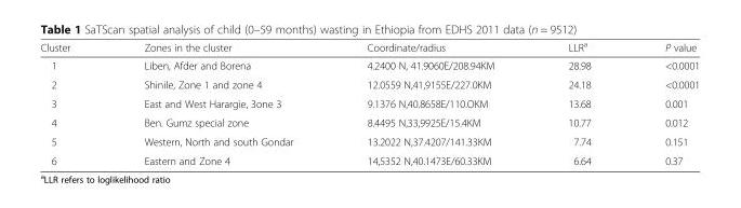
<table><thead><tr><td>Cluster</td><td>Zones in the cluster</td><td>Coordinate/radius</td><td>LLR<sup>a</sup></td><td>P value</td></tr></thead><tbody><tr><td>1</td><td>Liben, Afder and Borena</td><td>4.2400 N, 41.9060E/208.94KM</td><td>28.98</td><td>&lt;0.0001</td></tr><tr><td>2</td><td>Shinile, Zone 1 and zone 4</td><td>12.0559 N,41,9155E/227.0KM</td><td>24.18</td><td>&lt;0.0001</td></tr><tr><td>3</td><td>East and West Harargie, 3one 3</td><td>9.1376 N,40.8658E/110.OKM</td><td>13.68</td><td>0.001</td></tr><tr><td>4</td><td>Ben. Gumz special zone</td><td>8.4495 N,33,9925E/15.4KM</td><td>10.77</td><td>0.012</td></tr><tr><td>5</td><td>Western, North and south Gondar</td><td>13.2022 N,37.4207/141.33KM</td><td>7.74</td><td>0.151</td></tr><tr><td>6</td><td>Eastern and Zone 4</td><td>14,5352 N,40.1473E/60.33KM</td><td>6.64</td><td>0.37</td></tr></tbody></table>